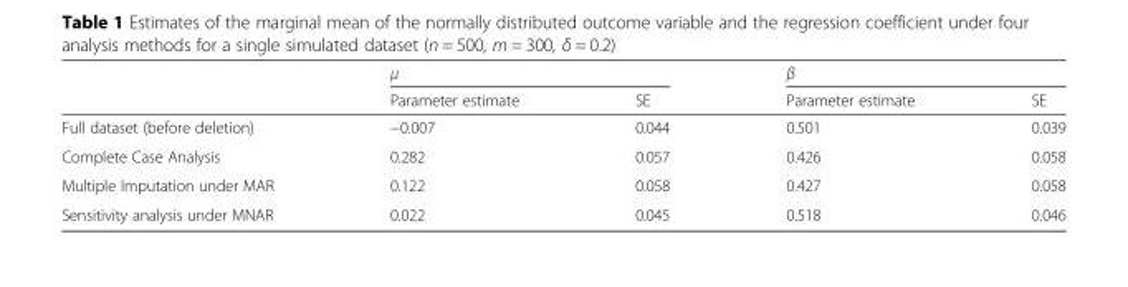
<table><thead><tr><td rowspan="2"></td><td colspan="2">μ</td><td colspan="2">β</td></tr><tr><td>Parameter estimate</td><td>SE</td><td>Parameter estimate</td><td>SE</td></tr></thead><tbody><tr><td>Full dataset (before deletion)</td><td>−0.007</td><td>0.044</td><td>0.501</td><td>0.039</td></tr><tr><td>Complete Case Analysis</td><td>0.282</td><td>0.057</td><td>0.426</td><td>0.058</td></tr><tr><td>Multiple Imputation under MAR</td><td>0.122</td><td>0.058</td><td>0.427</td><td>0.058</td></tr><tr><td>Sensitivity analysis under MNAR</td><td>0.022</td><td>0.045</td><td>0.518</td><td>0.046</td></tr></tbody></table>